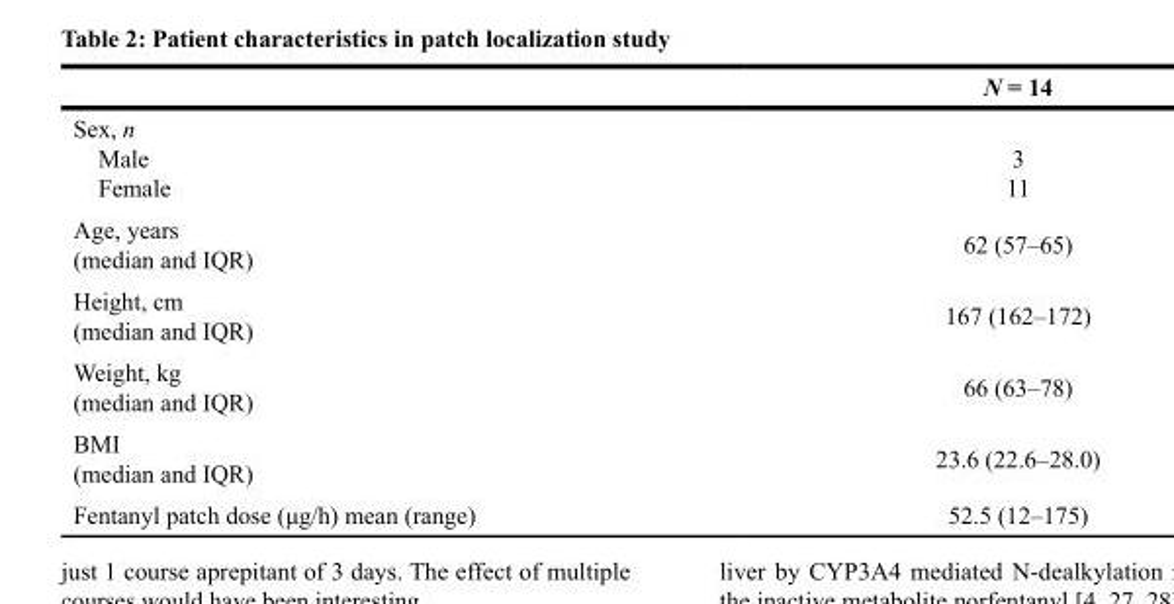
<table><thead><tr><td></td><td>N = 14</td></tr></thead><tbody><tr><td colspan="2">Sex, n</td></tr><tr><td>Male</td><td>3</td></tr><tr><td>Female</td><td>11</td></tr><tr><td>Age, years (median and IQR)</td><td>62 (57–65)</td></tr><tr><td>Height, cm (median and IQR)</td><td>167 (162–172)</td></tr><tr><td>Weight, kg (median and IQR)</td><td>66 (63–78)</td></tr><tr><td>BMI (median and IQR)</td><td>23.6 (22.6–28.0)</td></tr><tr><td>Fentanyl patch dose (μg/h) mean (range)</td><td>52.5 (12–175)</td></tr></tbody></table>